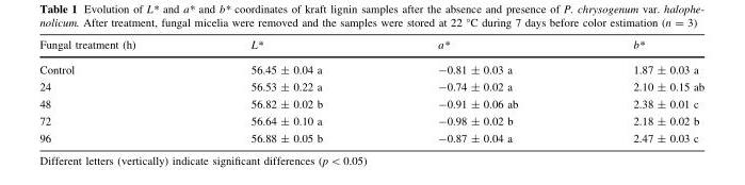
<table><thead><tr><td>Fungal treatment (h)</td><td>L*</td><td>a*</td><td>b*</td></tr></thead><tbody><tr><td>Control</td><td>56.45 ± 0.04 a</td><td>-0.81 ± 0.03 a</td><td>1.87 ± 0.03 a</td></tr><tr><td>24</td><td>56.53 ± 0.22 a</td><td>-0.74 ± 0.02 a</td><td>2.10 ± 0.15 ab</td></tr><tr><td>48</td><td>56.82 ± 0.02 b</td><td>-0.91 ± 0.06 ab</td><td>2.38 ± 0.01 c</td></tr><tr><td>72</td><td>56.64 ± 0.10 a</td><td>-0.98 ± 0.02 b</td><td>2.18 ± 0.02 b</td></tr><tr><td>96</td><td>56.88 ± 0.05 b</td><td>-0.87 ± 0.04 a</td><td>2.47 ± 0.03 c</td></tr></tbody></table>